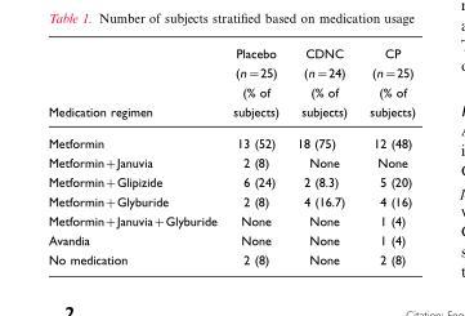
<table><thead><tr><td>Medication regimen</td><td>Placebo (n=25) (% of subjects)</td><td>CDNC (n=24) (% of subjects)</td><td>CP (n=25) (% of subjects)</td></tr></thead><tbody><tr><td>Metformin</td><td>13 (52)</td><td>18 (75)</td><td>12 (48)</td></tr><tr><td>Metformin+Januvia</td><td>2 (8)</td><td>None</td><td>None</td></tr><tr><td>Metformin+Glipizide</td><td>6 (24)</td><td>2 (8.3)</td><td>5 (20)</td></tr><tr><td>Metformin+Glyburide</td><td>2 (8)</td><td>4 (16.7)</td><td>4 (16)</td></tr><tr><td>Metformin+Januvia+Glyburide</td><td>None</td><td>None</td><td>1 (4)</td></tr><tr><td>Avandia</td><td>None</td><td>None</td><td>1 (4)</td></tr><tr><td>No medication</td><td>2 (8)</td><td>None</td><td>2 (8)</td></tr></tbody></table>